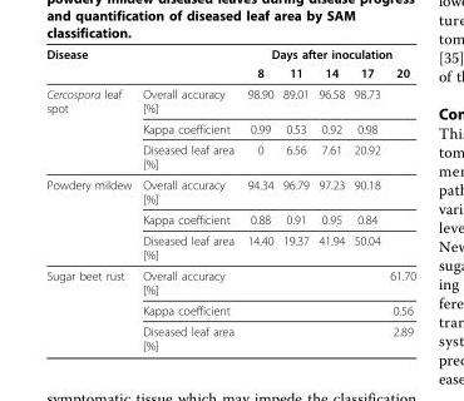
<table><thead><tr><td rowspan="2">Disease</td><td rowspan="2"></td><td colspan="5">Days after inoculation</td></tr><tr><td>8</td><td>11</td><td>14</td><td>17</td><td>20</td></tr></thead><tbody><tr><td rowspan="3">Cercospora leaf spot</td><td>Overall accuracy [%]</td><td>98.90</td><td>89.01</td><td>96.58</td><td>98.73</td><td></td></tr><tr><td>Kappa coefficient</td><td>0.99</td><td>0.53</td><td>0.92</td><td>0.98</td><td></td></tr><tr><td>Diseased leaf area [%]</td><td>0</td><td>6.56</td><td>7.61</td><td>20.92</td><td></td></tr><tr><td rowspan="3">Powdery mildew</td><td>Overall accuracy [%]</td><td>94.34</td><td>96.79</td><td>97.23</td><td>90.18</td><td></td></tr><tr><td>Kappa coefficient</td><td>0.88</td><td>0.91</td><td>0.95</td><td>0.84</td><td></td></tr><tr><td>Diseased leaf area [%]</td><td>14.40</td><td>19.37</td><td>41.94</td><td>50.04</td><td></td></tr><tr><td rowspan="3">Sugar beet rust</td><td>Overall accuracy [%]</td><td></td><td></td><td></td><td></td><td>61.70</td></tr><tr><td>Kappa coefficient</td><td></td><td></td><td></td><td></td><td>0.56</td></tr><tr><td>Diseased leaf area [%]</td><td></td><td></td><td></td><td></td><td>2.89</td></tr></tbody></table>